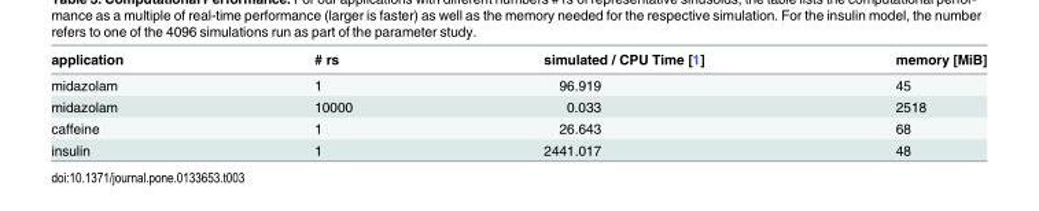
<table><thead><tr><td>application</td><td># rs</td><td>simulated / CPU Time [1]</td><td>memory [MiB]</td></tr></thead><tbody><tr><td>midazolam</td><td>1</td><td>96.919</td><td>45</td></tr><tr><td>midazolam</td><td>10000</td><td>0.033</td><td>2518</td></tr><tr><td>caffeine</td><td>1</td><td>26.643</td><td>68</td></tr><tr><td>insulin</td><td>1</td><td>2441.017</td><td>48</td></tr></tbody></table>